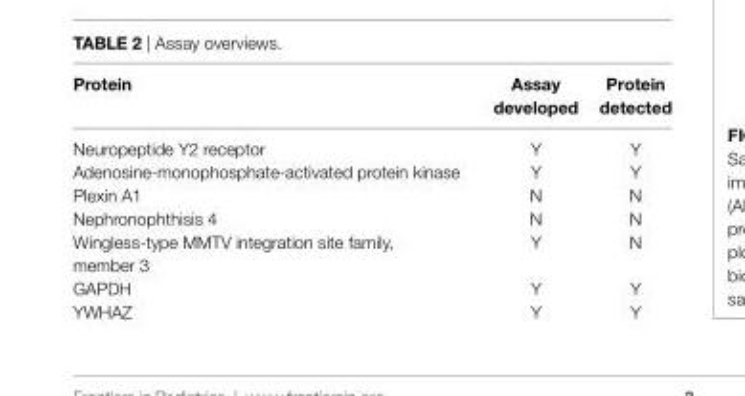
<table><thead><tr><td>Protein</td><td>assay developed</td><td>Protein detected</td></tr></thead><tbody><tr><td>Neuropeptide Y2 receptor</td><td>Y</td><td>Y</td></tr><tr><td>Adenosine-monophosphate-activated protein kinase</td><td>Y</td><td>Y</td></tr><tr><td>Plexin A1</td><td>N</td><td>N</td></tr><tr><td>Nephronophthisis 4</td><td>N</td><td>N</td></tr><tr><td>Wingless-type MMTV integration site family, member 3</td><td>Y</td><td>N</td></tr><tr><td>GAPDH</td><td>Y</td><td>Y</td></tr><tr><td>YWHAZ</td><td>Y</td><td>Y</td></tr></tbody></table>